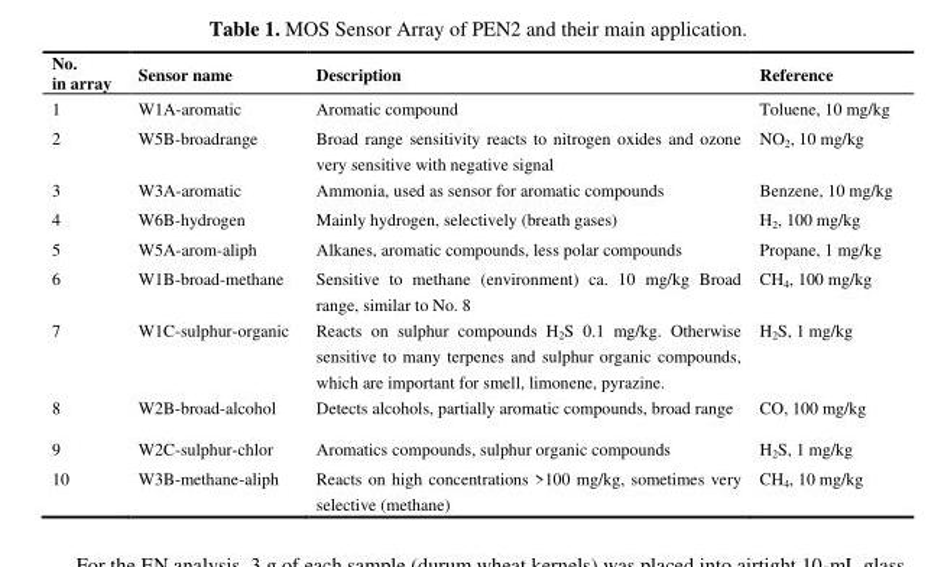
<table><thead><tr><td>No. in array</td><td>Sensor name</td><td>Description</td><td>Reference</td></tr></thead><tbody><tr><td>1</td><td>W1A-aromatic</td><td>Aromatic compound</td><td>Toluene, 10 mg/kg</td></tr><tr><td>2</td><td>W5B-broadrange</td><td>Broad range sensitivity reacts to nitrogen oxides and ozone very sensitive with negative signal</td><td>NO<sub>2</sub>, 10 mg/kg</td></tr><tr><td>3</td><td>W3A-aromatic</td><td>Ammonia, used as sensor for aromatic compounds</td><td>Benzene, 10 mg/kg</td></tr><tr><td>4</td><td>W6B-hydrogen</td><td>Mainly hydrogen, selectively (breath gases)</td><td>H<sub>2</sub>, 100 mg/kg</td></tr><tr><td>5</td><td>W5A-arom-aliph</td><td>Alkanes, aromatic compounds, less polar compounds</td><td>Propane, 1 mg/kg</td></tr><tr><td>6</td><td>W1B-broad-methane</td><td>Sensitive to methane (environment) ca. 10 mg/kg Broad range, similar to No. 8</td><td>CH<sub>4</sub>, 100 mg/kg</td></tr><tr><td>7</td><td>W1C-sulphur-organic</td><td>Reacts on sulphur compounds H<sub>2</sub>S 0.1 mg/kg. Otherwise sensitive to many terpenes and sulphur organic compounds, which are important for smell, limonene, pyrazine.</td><td>H<sub>2</sub>S, 1 mg/kg</td></tr><tr><td>8</td><td>W2B-broad-alcohol</td><td>Detects alcohols, partially aromatic compounds, broad range</td><td>CO, 100 mg/kg</td></tr><tr><td>9</td><td>W2C-sulphur-chlor</td><td>Aromatics compounds, sulphur organic compounds</td><td>H<sub>2</sub>S, 1 mg/kg</td></tr><tr><td>10</td><td>W3B-methane-aliph</td><td>Reacts on high concentrations &gt;100 mg/kg, sometimes very selective (methane)</td><td>CH<sub>4</sub>, 10 mg/kg</td></tr></tbody></table>